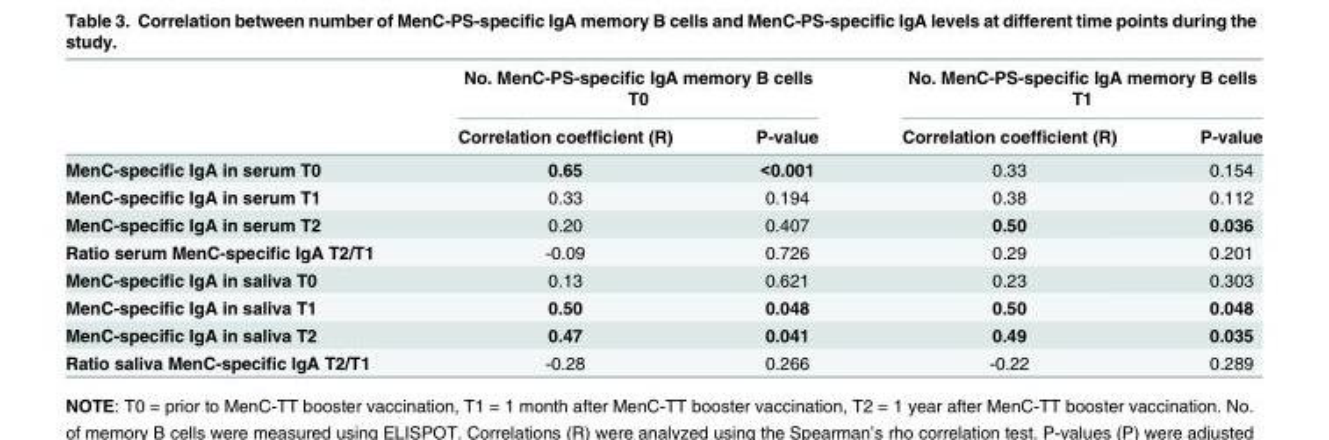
<table><thead><tr><td rowspan="2"></td><td colspan="2">No. MenC-PS-specific IgA memory B cells T0</td><td colspan="2">No. MenC-PS-specific IgA memory B cells T1</td></tr><tr><td>Correlation coefficient (R)</td><td>P-value</td><td>Correlation coefficient (R)</td><td>P-value</td></tr></thead><tbody><tr><td>MenC-specific IgA in serum T0</td><td>0.65</td><td>&lt;0.001</td><td>0.33</td><td>0.154</td></tr><tr><td>MenC-specific IgA in serum T1</td><td>0.33</td><td>0.194</td><td>0.38</td><td>0.112</td></tr><tr><td>MenC-specific IgA in serum T2</td><td>0.20</td><td>0.407</td><td>0.50</td><td>0.036</td></tr><tr><td>Ratio serum MenC-specific IgA T2/T1</td><td>-0.09</td><td>0.726</td><td>0.29</td><td>0.201</td></tr><tr><td>MenC-specific IgA in saliva T0</td><td>0.13</td><td>0.621</td><td>0.23</td><td>0.303</td></tr><tr><td>MenC-specific IgA in saliva T1</td><td>0.50</td><td>0.048</td><td>0.50</td><td>0.048</td></tr><tr><td>MenC-specific IgA in saliva T2</td><td>0.47</td><td>0.041</td><td>0.49</td><td>0.035</td></tr><tr><td>Ratio saliva MenC-specific IgA T2/T1</td><td>-0.28</td><td>0.266</td><td>-0.22</td><td>0.289</td></tr></tbody></table>